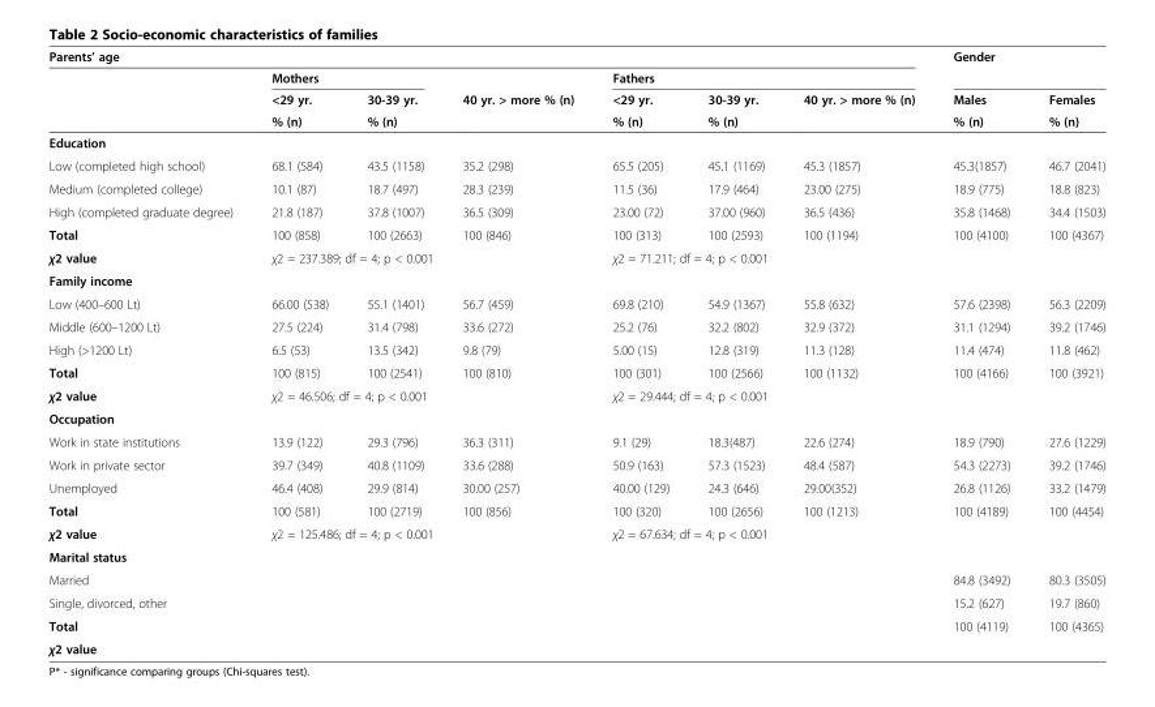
<table><thead><tr><td colspan="7">Parents’ age</td><td rowspan="2" colspan="2">Gender</td></tr><tr><td rowspan="3"></td><td colspan="2">Mothers</td><td rowspan="3">40 yr. &gt; more % (n)</td><td colspan="3">Fathers</td></tr><tr><td rowspan="2">&lt;29 yr. % (n)</td><td rowspan="2">30-39 yr. % (n)</td><td rowspan="2">&lt;29 yr. % (n)</td><td rowspan="2">30-39 yr. % (n)</td><td rowspan="2">40 yr. &gt; more % (n)</td><td rowspan="2">Males % (n)</td><td rowspan="2">Females % (n)</td></tr><tr></tr></thead><tbody><tr><td colspan="9">Education</td></tr><tr><td>Low (completed high school)</td><td>68.1 (584)</td><td>43.5 (1158)</td><td>35.2 (298)</td><td>65.5 (205)</td><td>45.1 (1169)</td><td>45.3 (1857)</td><td>45.3(1857)</td><td>46.7 (2041)</td></tr><tr><td>Medium (completed college)</td><td>10.1 (87)</td><td>18.7 (497)</td><td>28.3 (239)</td><td>11.5 (36)</td><td>17.9 (464)</td><td>23.00 (275)</td><td>18.9 (775)</td><td>18.8 (823)</td></tr><tr><td>High (completed graduate degree)</td><td>21.8 (187)</td><td>37.8 (1007)</td><td>36.5 (309)</td><td>23.00 (72)</td><td>37.00 (960)</td><td>36.5 (436)</td><td>35.8 (1468)</td><td>34.4 (1503)</td></tr><tr><td>Total</td><td>100 (858)</td><td>100 (2663)</td><td>100 (846)</td><td>100 (313)</td><td>100 (2593)</td><td>100 (1194)</td><td>100 (4100)</td><td>100 (4367)</td></tr><tr><td>χ2 value</td><td colspan="3">χ2 = 237.389; df = 4; p &lt; 0.001</td><td colspan="3">χ2 = 71.211; df = 4; p &lt; 0.001</td><td></td><td></td></tr><tr><td colspan="9">Family income</td></tr><tr><td>Low (400–600 Lt)</td><td>66.00 (538)</td><td>55.1 (1401)</td><td>56.7 (459)</td><td>69.8 (210)</td><td>54.9 (1367)</td><td>55.8 (632)</td><td>57.6 (2398)</td><td>56.3 (2209)</td></tr><tr><td>Middle (600–1200 Lt)</td><td>27.5 (224)</td><td>31.4 (798)</td><td>33.6 (272)</td><td>25.2 (76)</td><td>32.2 (802)</td><td>32.9 (372)</td><td>31.1 (1294)</td><td>39.2 (1746)</td></tr><tr><td>High (&gt;1200 Lt)</td><td>6.5 (53)</td><td>13.5 (342)</td><td>9.8 (79)</td><td>5.00 (15)</td><td>12.8 (319)</td><td>11.3 (128)</td><td>11.4 (474)</td><td>11.8 (462)</td></tr><tr><td>Total</td><td>100 (815)</td><td>100 (2541)</td><td>100 (810)</td><td>100 (301)</td><td>100 (2566)</td><td>100 (1132)</td><td>100 (4166)</td><td>100 (3921)</td></tr><tr><td>χ2 value</td><td colspan="3">χ2 = 46.506; df = 4; p &lt; 0.001</td><td colspan="3">χ2 = 29.444; df = 4; p &lt; 0.001</td><td></td><td></td></tr><tr><td colspan="9">Occupation</td></tr><tr><td>Work in state institutions</td><td>13.9 (122)</td><td>29.3 (796)</td><td>36.3 (311)</td><td>9.1 (29)</td><td>18.3(487)</td><td>22.6 (274)</td><td>18.9 (790)</td><td>27.6 (1229)</td></tr><tr><td>Work in private sector</td><td>39.7 (349)</td><td>40.8 (1109)</td><td>33.6 (288)</td><td>50.9 (163)</td><td>57.3 (1523)</td><td>48.4 (587)</td><td>54.3 (2273)</td><td>39.2 (1746)</td></tr><tr><td>Unemployed</td><td>46.4 (408)</td><td>29.9 (814)</td><td>30.00 (257)</td><td>40.00 (129)</td><td>24.3 (646)</td><td>29.00(352)</td><td>26.8 (1126)</td><td>33.2 (1479)</td></tr><tr><td>Total</td><td>100 (581)</td><td>100 (2719)</td><td>100 (856)</td><td>100 (320)</td><td>100 (2656)</td><td>100 (1213)</td><td>100 (4189)</td><td>100 (4454)</td></tr><tr><td>χ2 value</td><td colspan="3">χ2 = 125.486; df = 4; p &lt; 0.001</td><td colspan="3">χ2 = 67.634; df = 4; p &lt; 0.001</td><td></td><td></td></tr><tr><td colspan="9">Marital status</td></tr><tr><td>Married</td><td></td><td></td><td></td><td></td><td></td><td></td><td>84.8 (3492)</td><td>80.3 (3505)</td></tr><tr><td>Single, divorced, other</td><td></td><td></td><td></td><td></td><td></td><td></td><td>15.2 (627)</td><td>19.7 (860)</td></tr><tr><td>Total</td><td></td><td></td><td></td><td></td><td></td><td></td><td>100 (4119)</td><td>100 (4365)</td></tr><tr><td>χ2 value</td><td colspan="3"></td><td colspan="3"></td><td></td><td></td></tr></tbody></table>